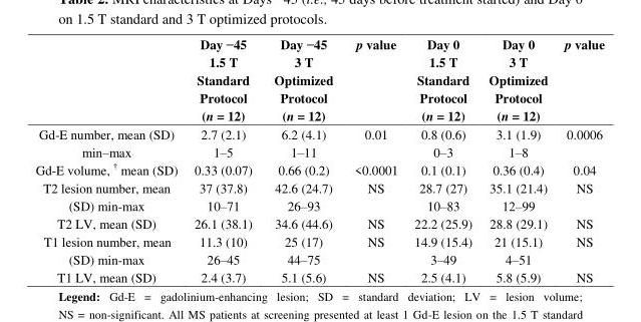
<table><thead><tr><td></td><td>Day −45 1.5 T Standard Protocol (n = 12)</td><td>Day −45 3 T Optimized Protocol (n = 12)</td><td>p value</td><td>Day 0 1.5 T Standard Protocol (n = 12)</td><td>Day 0 3 T Optimized Protocol (n = 12)</td><td>p value</td></tr></thead><tbody><tr><td>Gd-E number, mean (SD) min–max</td><td>2.7 (2.1) 1–5</td><td>6.2 (4.1) 1–11</td><td>0.01</td><td>0.8 (0.6) 0–3</td><td>3.1 (1.9) 1–8</td><td>0.0006</td></tr><tr><td>Gd-E volume, † mean (SD)</td><td>0.33 (0.07)</td><td>0.66 (0.2)</td><td>&lt;0.0001</td><td>0.1 (0.1)</td><td>0.36 (0.4)</td><td>0.04</td></tr><tr><td>T2 lesion number, mean (SD) min-max</td><td>37 (37.8) 10–71</td><td>42.6 (24.7) 26–93</td><td>NS</td><td>28.7 (27) 10–83</td><td>35.1 (21.4) 12–99</td><td>NS</td></tr><tr><td>T2 LV, mean (SD)</td><td>26.1 (38.1)</td><td>34.6 (44.6)</td><td>NS</td><td>22.2 (25.9)</td><td>28.8 (29.1)</td><td>NS</td></tr><tr><td>T1 lesion number, mean (SD) min-max</td><td>11.3 (10) 26–45</td><td>25 (17) 44–75</td><td>NS</td><td>14.9 (15.4) 3–49</td><td>21 (15.1) 4–51</td><td>NS</td></tr><tr><td>T1 LV, mean (SD)</td><td>2.4 (3.7)</td><td>5.1 (5.6)</td><td>NS</td><td>2.5 (4.1)</td><td>5.8 (5.9)</td><td>NS</td></tr></tbody></table>